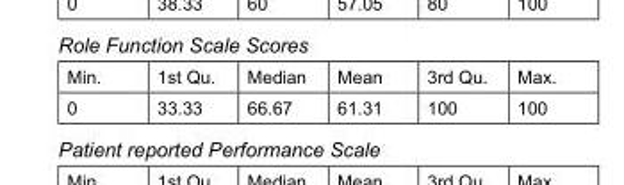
<table><tbody><tr><td>Min.</td><td>1st Qu.</td><td>Median</td><td>Mean</td><td>3rd Qu.</td><td>Max.</td></tr><tr><td>0</td><td>33.33</td><td>66.67</td><td>61.31</td><td>100</td><td>100</td></tr></tbody></table>